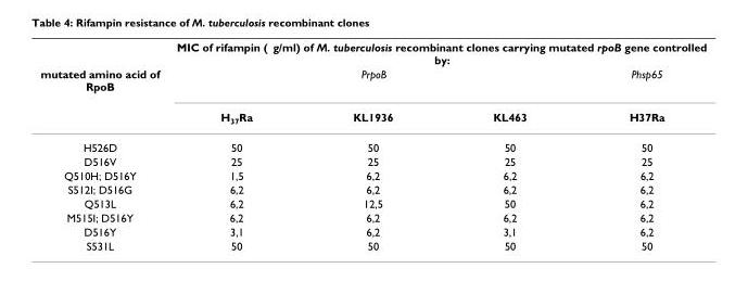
<table><thead><tr><td rowspan="3">mutated amino acid of RpoB</td><td colspan="4">MIC of rifampin ( g/ml) of M. tuberculosis recombinant clones carrying mutated rpoB gene controlled by:</td></tr><tr><td colspan="3">PrpoB</td><td rowspan="2">Phsp65 H37Ra</td></tr><tr><td>H37Ra</td><td>KL1936</td><td>KL463</td></tr></thead><tbody><tr><td>H526D</td><td>50</td><td>50</td><td>50</td><td>50</td></tr><tr><td>D516V</td><td>25</td><td>25</td><td>25</td><td>25</td></tr><tr><td>Q510H; D516Y</td><td>1,5</td><td>6,2</td><td>6,2</td><td>6,2</td></tr><tr><td>S512I; D516G</td><td>6,2</td><td>6,2</td><td>6,2</td><td>6,2</td></tr><tr><td>Q513L</td><td>6,2</td><td>12,5</td><td>50</td><td>6,2</td></tr><tr><td>M515I; D516Y</td><td>6,2</td><td>6,2</td><td>6,2</td><td>6,2</td></tr><tr><td>D516Y</td><td>3,1</td><td>6,2</td><td>3,1</td><td>6,2</td></tr><tr><td>S531L</td><td>50</td><td>50</td><td>50</td><td>50</td></tr></tbody></table>